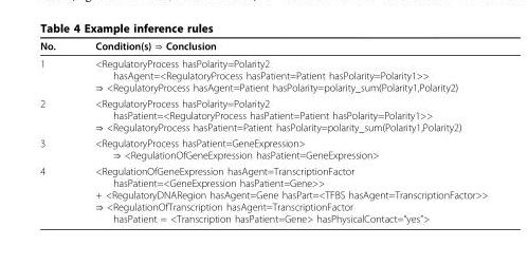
<table><thead><tr><td>No.</td><td>Condition(s) ⇒ Conclusion</td></tr></thead><tbody><tr><td>1</td><td>&lt;RegulatoryProcess hasPolarity=Polarity2 hasAgent=&lt;RegulatoryProcess hasPatient=Patient hasPolarity=Polarity1&gt;&gt; ⇒ &lt;RegulatoryProcess hasAgent=Patient hasPolarity=polarity_sum(Polarity1,Polarity2)</td></tr><tr><td>2</td><td>&lt;RegulatoryProcess hasPolarity=Polarity2 hasPatient=&lt;RegulatoryProcess hasPatient=Patient hasPolarity=Polarity1&gt;&gt; ⇒ &lt;RegulatoryProcess hasPatient=Patient hasPolarity=polarity_sum(Polarity1,Polarity2)</td></tr><tr><td>3</td><td>&lt;RegulatoryProcess hasPatient=GeneExpression&gt; ⇒ &lt;RegulationOfGeneExpression hasPatient=GeneExpression&gt;</td></tr><tr><td>4</td><td>&lt;RegulationOfGeneExpression hasAgent=TranscriptionFactor hasPatient=&lt;GeneExpression hasPatient=Gene&gt;&gt; + &lt;RegulatoryDNARegion hasAgent=Gene hasPart=&lt;TFBS hasAgent=TranscriptionFactor&gt;&gt; ⇒ &lt;RegulationOfTranscription hasAgent=TranscriptionFactor hasPatient = &lt;Transcription hasPatient=Gene&gt; hasPhysicalContact=“yes”&gt;</td></tr></tbody></table>